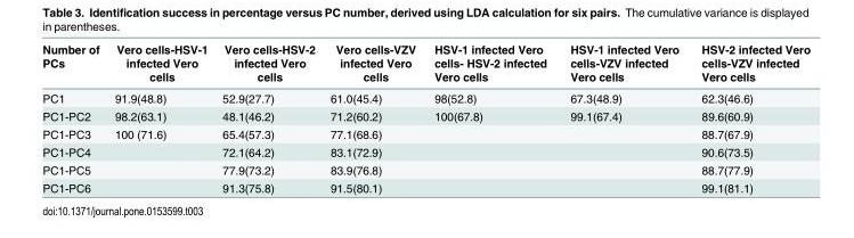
<table><thead><tr><td>Number of PCs</td><td>Vero cells-HSV-1 infected Vero cells</td><td>Vero cells-HSV-2 infected Vero cells</td><td>Vero cells-VZV infected Vero cells</td><td>HSV-1 infected Vero cells- HSV-2 infected Vero cells</td><td>HSV-1 infected Vero cells-VZV infected Vero cells</td><td>HSV-2 infected Vero cells-VZV infected Vero cells</td></tr></thead><tbody><tr><td>PC1</td><td>91.9(48.8)</td><td>52.9(27.7)</td><td>61.0(45.4)</td><td>98(52.8)</td><td>67.3(48.9)</td><td>62.3(46.6)</td></tr><tr><td>PC1-PC2</td><td>98.2(63.1)</td><td>48.1(46.2)</td><td>71.2(60.2)</td><td>100(67.8)</td><td>99.1(67.4)</td><td>89.6(60.9)</td></tr><tr><td>PC1-PC3</td><td>100 (71.6)</td><td>65.4(57.3)</td><td>77.1(68.6)</td><td></td><td></td><td>88.7(67.9)</td></tr><tr><td>PC1-PC4</td><td></td><td>72.1(64.2)</td><td>83.1(72.9)</td><td></td><td></td><td>90.6(73.5)</td></tr><tr><td>PC1-PC5</td><td></td><td>77.9(73.2)</td><td>83.9(76.8)</td><td></td><td></td><td>88.7(77.9)</td></tr><tr><td>PC1-PC6</td><td></td><td>91.3(75.8)</td><td>91.5(80.1)</td><td></td><td></td><td>99.1(81.1)</td></tr></tbody></table>